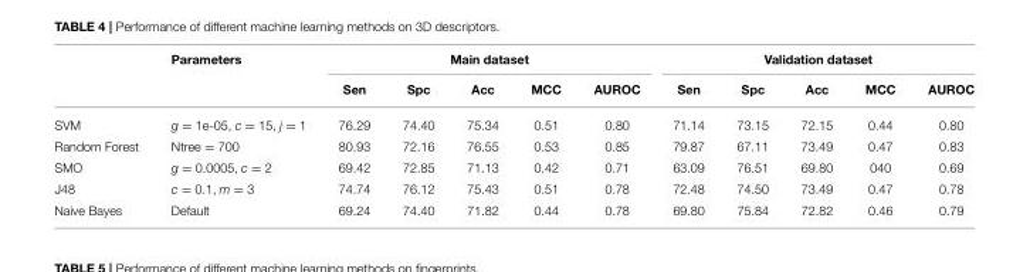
<table><thead><tr><td rowspan="2"></td><td rowspan="2">Parameters</td><td colspan="5">Main dataset</td><td colspan="5">Validation dataset</td></tr><tr><td>Sen</td><td>Spc</td><td>Acc</td><td>MCC</td><td>AUROC</td><td>Sen</td><td>Spc</td><td>Acc</td><td>MCC</td><td>AUROC</td></tr></thead><tbody><tr><td>SVM</td><td>g = 1e-05, c = 15, j = 1</td><td>76.29</td><td>74.40</td><td>75.34</td><td>0.51</td><td>0.80</td><td>71.14</td><td>73.15</td><td>72.15</td><td>0.44</td><td>0.80</td></tr><tr><td>Random Forest</td><td>Ntree = 700</td><td>80.93</td><td>72.16</td><td>76.55</td><td>0.53</td><td>0.85</td><td>79.87</td><td>67.11</td><td>73.49</td><td>0.47</td><td>0.83</td></tr><tr><td>SMO</td><td>g = 0.0005, c = 2</td><td>69.42</td><td>72.85</td><td>71.13</td><td>0.42</td><td>0.71</td><td>63.09</td><td>76.51</td><td>69.80</td><td>040</td><td>0.69</td></tr><tr><td>J48</td><td>c = 0.1, m = 3</td><td>74.74</td><td>76.12</td><td>75.43</td><td>0.51</td><td>0.78</td><td>72.48</td><td>74.50</td><td>73.49</td><td>0.47</td><td>0.78</td></tr><tr><td>Naive Bayes</td><td>Default</td><td>69.24</td><td>74.40</td><td>71.82</td><td>0.44</td><td>0.78</td><td>69.80</td><td>75.84</td><td>72.82</td><td>0.46</td><td>0.79</td></tr></tbody></table>